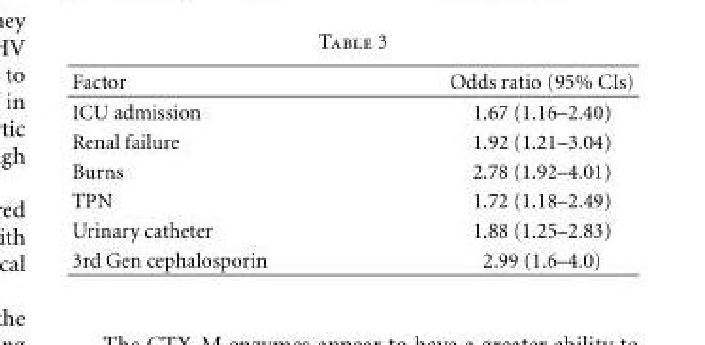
<table><thead><tr><td>Factor</td><td>Odds ratio (95% CIs)</td></tr></thead><tbody><tr><td>ICU admission</td><td>1.67 (1.16–2.40)</td></tr><tr><td>Renal failure</td><td>1.92 (1.21–3.04)</td></tr><tr><td>Burns</td><td>2.78 (1.92–4.01)</td></tr><tr><td>TPN</td><td>1.72 (1.18–2.49)</td></tr><tr><td>Urinary catheter</td><td>1.88 (1.25–2.83)</td></tr><tr><td>3rd Gen cephalosporin</td><td>2.99 (1.6–4.0)</td></tr></tbody></table>